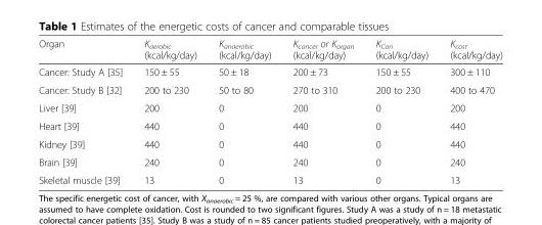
<table><thead><tr><td>Organ</td><td>K<sub>aerobic</sub> (kcal/kg/day)</td><td>K<sub>anaerobic</sub> (kcal/kg/day)</td><td>K<sub>cancer</sub> or K<sub>organ</sub> (kcal/kg/day)</td><td>K<sub>Cori</sub> (kcal/kg/day)</td><td>K<sub>cost</sub> (kcal/kg/day)</td></tr></thead><tbody><tr><td>Cancer: Study A [35]</td><td>150 ± 55</td><td>50 ± 18</td><td>200 ± 73</td><td>150 ± 55</td><td>300 ± 110</td></tr><tr><td>Cancer: Study B [32]</td><td>200 to 230</td><td>50 to 80</td><td>270 to 310</td><td>200 to 230</td><td>400 to 470</td></tr><tr><td>Liver [39]</td><td>200</td><td>0</td><td>200</td><td>0</td><td>200</td></tr><tr><td>Heart [39]</td><td>440</td><td>0</td><td>440</td><td>0</td><td>440</td></tr><tr><td>Kidney [39]</td><td>440</td><td>0</td><td>440</td><td>0</td><td>440</td></tr><tr><td>Brain [39]</td><td>240</td><td>0</td><td>240</td><td>0</td><td>240</td></tr><tr><td>Skeletal muscle [39]</td><td>13</td><td>0</td><td>13</td><td>0</td><td>13</td></tr></tbody></table>